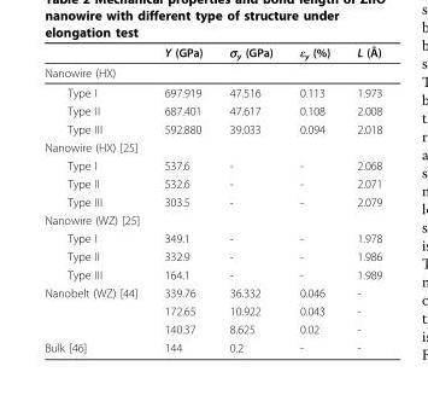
<table><thead><tr><td></td><td>Y (GPa)</td><td>σ<sub>y</sub> (GPa)</td><td>ε<sub>y</sub> (%)</td><td>L (Å)</td></tr></thead><tbody><tr><td colspan="5">Nanowire (HX)</td></tr><tr><td>Type I</td><td>697.919</td><td>47.516</td><td>0.113</td><td>1.973</td></tr><tr><td>Type II</td><td>687.401</td><td>47.617</td><td>0.108</td><td>2.008</td></tr><tr><td>Type III</td><td>592.880</td><td>39.033</td><td>0.094</td><td>2.018</td></tr><tr><td colspan="5">Nanowire (HX) [25]</td></tr><tr><td>Type I</td><td>537.6</td><td>-</td><td>-</td><td>2.068</td></tr><tr><td>Type II</td><td>532.6</td><td>-</td><td>-</td><td>2.071</td></tr><tr><td>Type III</td><td>303.5</td><td>-</td><td>-</td><td>2.079</td></tr><tr><td colspan="5">Nanowire (WZ) [25]</td></tr><tr><td>Type I</td><td>349.1</td><td>-</td><td>-</td><td>1.978</td></tr><tr><td>Type II</td><td>332.9</td><td>-</td><td>-</td><td>1.986</td></tr><tr><td>Type III</td><td>164.1</td><td>-</td><td>-</td><td>1.989</td></tr><tr><td rowspan="3">Nanobelt (WZ) [44]</td><td>339.76</td><td>36.332</td><td>0.046</td><td>-</td></tr><tr><td>172.65</td><td>10.922</td><td>0.043</td><td>-</td></tr><tr><td>140.37</td><td>8.625</td><td>0.02</td><td>-</td></tr><tr><td>Bulk [46]</td><td>144</td><td>0.2</td><td>-</td><td>-</td></tr></tbody></table>